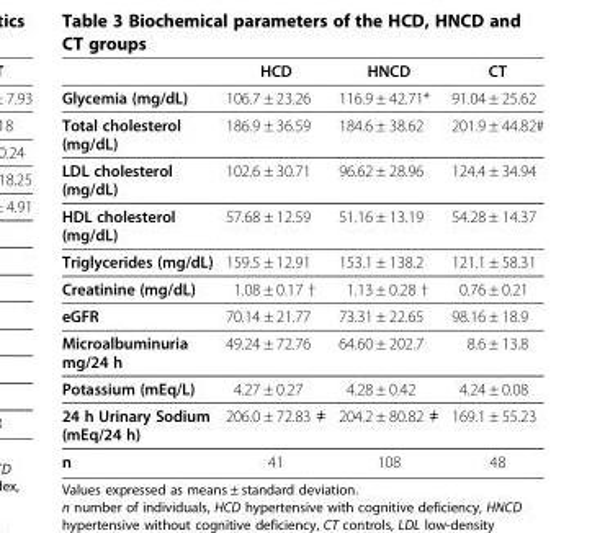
<table><thead><tr><td></td><td>HCD</td><td>HNCD</td><td>CT</td></tr></thead><tbody><tr><td>Glycemia (mg/dL)</td><td>106.7 ± 23.26</td><td>116.9 ± 42.71*</td><td>91.04 ± 25.62</td></tr><tr><td>Total cholesterol (mg/dL)</td><td>186.9 ± 36.59</td><td>184.6 ± 38.62</td><td>201.9 ± 44.82#</td></tr><tr><td>LDL cholesterol (mg/dL)</td><td>102.6 ± 30.71</td><td>96.62 ± 28.96</td><td>124.4 ± 34.94</td></tr><tr><td>HDL cholesterol (mg/dL)</td><td>57.68 ± 12.59</td><td>51.16 ± 13.19</td><td>54.28 ± 14.37</td></tr><tr><td>Triglycerides (mg/dL)</td><td>159.5 ± 12.91</td><td>153.1 ± 138.2</td><td>121.1 ± 58.31</td></tr><tr><td>Creatinine (mg/dL)</td><td>1.08 ± 0.17 †</td><td>1.13 ± 0.28 †</td><td>0.76 ± 0.21</td></tr><tr><td>eGFR</td><td>70.14 ± 21.77</td><td>73.31 ± 22.65</td><td>98.16 ± 18.9</td></tr><tr><td>Microalbuminuria mg/24 h</td><td>49.24 ± 72.76</td><td>64.60 ± 202.7</td><td>8.6 ± 13.8</td></tr><tr><td>Potassium (mEq/L)</td><td>4.27 ± 0.27</td><td>4.28 ± 0.42</td><td>4.24 ± 0.08</td></tr><tr><td>24 h Urinary Sodium (mEq/24 h)</td><td>206.0 ± 72.83 ≠</td><td>204.2 ± 80.82 ≠</td><td>169.1 ± 55.23</td></tr><tr><td>n</td><td>41</td><td>108</td><td>48</td></tr></tbody></table>